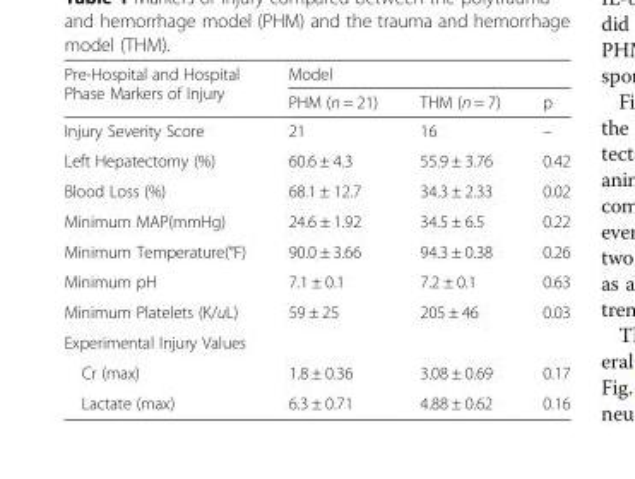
<table><thead><tr><td rowspan="2">Pre-Hospital and Hospital Phase Markers of Injury</td><td colspan="3">Model</td></tr><tr><td>PHM (n = 21)</td><td>THM (n = 7)</td><td>p</td></tr></thead><tbody><tr><td>Injury Severity Score</td><td>21</td><td>16</td><td>–</td></tr><tr><td>Left Hepatectomy (%)</td><td>60.6 ± 4.3</td><td>55.9 ± 3.76</td><td>0.42</td></tr><tr><td>Blood Loss (%)</td><td>68.1 ± 12.7</td><td>34.3 ± 2.33</td><td>0.02</td></tr><tr><td>Minimum MAP(mmHg)</td><td>24.6 ± 1.92</td><td>34.5 ± 6.5</td><td>0.22</td></tr><tr><td>Minimum Temperature(°F)</td><td>90.0 ± 3.66</td><td>94.3 ± 0.38</td><td>0.26</td></tr><tr><td>Minimum pH</td><td>7.1 ± 0.1</td><td>7.2 ± 0.1</td><td>0.63</td></tr><tr><td>Minimum Platelets (K/uL)</td><td>59 ± 25</td><td>205 ± 46</td><td>0.03</td></tr><tr><td colspan="4">Experimental Injury Values</td></tr><tr><td>Cr (max)</td><td>1.8 ± 0.36</td><td>3.08 ± 0.69</td><td>0.17</td></tr><tr><td>Lactate (max)</td><td>6.3 ± 0.71</td><td>4.88 ± 0.62</td><td>0.16</td></tr></tbody></table>